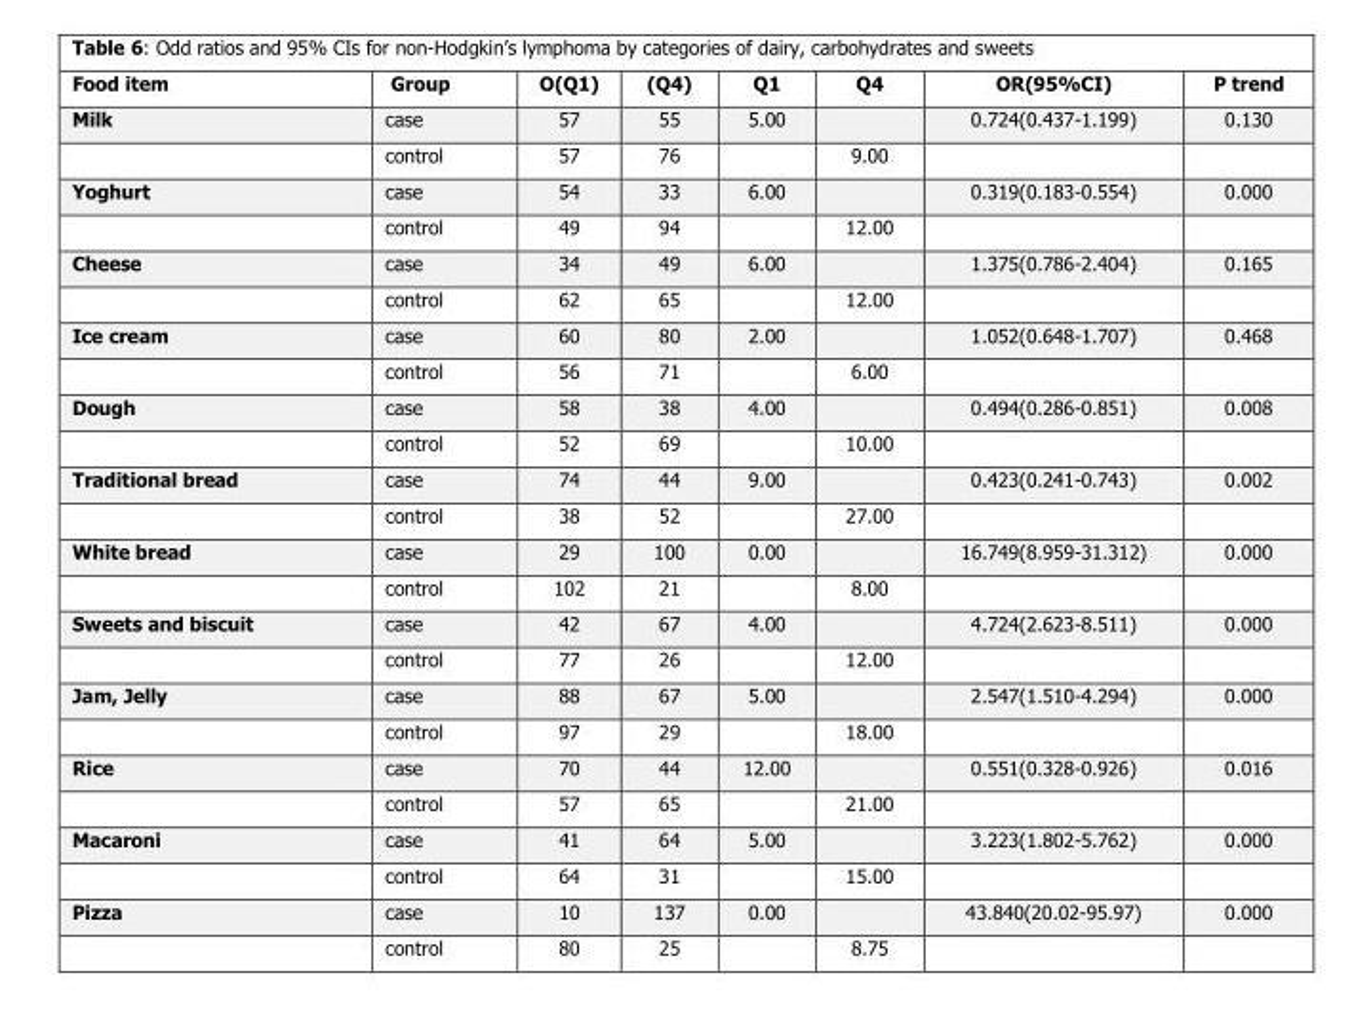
<table><thead><tr><td>Food item</td><td>Group</td><td>O(Q1)</td><td>(Q4)</td><td>Q1</td><td>Q4</td><td>OR(95%CI)</td><td>P trend</td></tr></thead><tbody><tr><td rowspan="2">Milk</td><td>case</td><td>57</td><td>55</td><td>5.00</td><td></td><td>0.724(0.437-1.199)</td><td>0.130</td></tr><tr><td>control</td><td>57</td><td>76</td><td></td><td>9.00</td><td></td><td></td></tr><tr><td rowspan="2">Yoghurt</td><td>case</td><td>54</td><td>33</td><td>6.00</td><td></td><td>0.319(0.183-0.554)</td><td>0.000</td></tr><tr><td>control</td><td>49</td><td>94</td><td></td><td>12.00</td><td></td><td></td></tr><tr><td rowspan="2">Cheese</td><td>case</td><td>34</td><td>49</td><td>6.00</td><td></td><td>1.375(0.786-2.404)</td><td>0.165</td></tr><tr><td>control</td><td>62</td><td>65</td><td></td><td>12.00</td><td></td><td></td></tr><tr><td rowspan="2">Ice cream</td><td>case</td><td>60</td><td>80</td><td>2.00</td><td></td><td>1.052(0.648-1.707)</td><td>0.468</td></tr><tr><td>control</td><td>56</td><td>71</td><td></td><td>6.00</td><td></td><td></td></tr><tr><td rowspan="2">Dough</td><td>case</td><td>58</td><td>38</td><td>4.00</td><td></td><td>0.494(0.286-0.851)</td><td>0.008</td></tr><tr><td>control</td><td>52</td><td>69</td><td></td><td>10.00</td><td></td><td></td></tr><tr><td rowspan="2">Traditional bread</td><td>case</td><td>74</td><td>44</td><td>9.00</td><td></td><td>0.423(0.241-0.743)</td><td>0.002</td></tr><tr><td>control</td><td>38</td><td>52</td><td></td><td>27.00</td><td></td><td></td></tr><tr><td rowspan="2">White bread</td><td>case</td><td>29</td><td>100</td><td>0.00</td><td></td><td>16.749(8.959-31.312)</td><td>0.000</td></tr><tr><td>control</td><td>102</td><td>21</td><td></td><td>8.00</td><td></td><td></td></tr><tr><td rowspan="2">Sweets and biscuit</td><td>case</td><td>42</td><td>67</td><td>4.00</td><td></td><td>4.724(2.623-8.511)</td><td>0.000</td></tr><tr><td>control</td><td>77</td><td>26</td><td></td><td>12.00</td><td></td><td></td></tr><tr><td rowspan="2">Jam, Jelly</td><td>case</td><td>88</td><td>67</td><td>5.00</td><td></td><td>2.547(1.510-4.294)</td><td>0.000</td></tr><tr><td>control</td><td>97</td><td>29</td><td></td><td>18.00</td><td></td><td></td></tr><tr><td rowspan="2">Rice</td><td>case</td><td>70</td><td>44</td><td>12.00</td><td></td><td>0.551(0.328-0.926)</td><td>0.016</td></tr><tr><td>control</td><td>57</td><td>65</td><td></td><td>21.00</td><td></td><td></td></tr><tr><td rowspan="2">Macaroni</td><td>case</td><td>41</td><td>64</td><td>5.00</td><td></td><td>3.223(1.802-5.762)</td><td>0.000</td></tr><tr><td>control</td><td>64</td><td>31</td><td></td><td>15.00</td><td></td><td></td></tr><tr><td rowspan="2">Pizza</td><td>case</td><td>10</td><td>137</td><td>0.00</td><td></td><td>43.840(20.02-95.97)</td><td>0.000</td></tr><tr><td>control</td><td>80</td><td>25</td><td></td><td>8.75</td><td></td><td></td></tr></tbody></table>